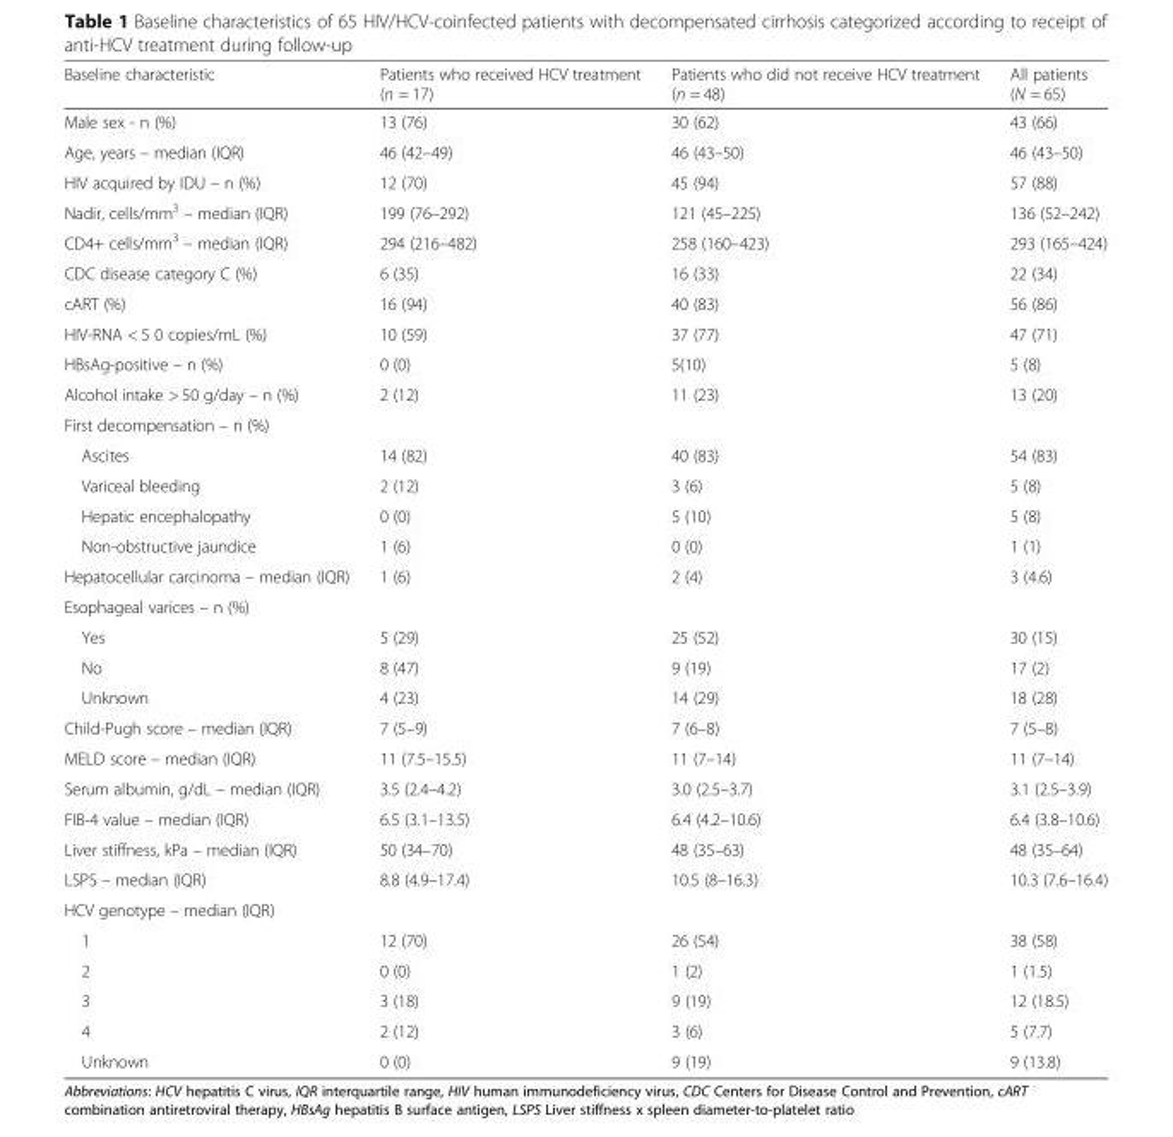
<table><thead><tr><td>Baseline characteristic</td><td>Patients who received HCV treatment (n = 17)</td><td>Patients who did not receive HCV treatment (n = 48)</td><td>All patients (N = 65)</td></tr></thead><tbody><tr><td>Male sex - n (%)</td><td>13 (76)</td><td>30 (62)</td><td>43 (66)</td></tr><tr><td>Age, years – median (IQR)</td><td>46 (42–49)</td><td>46 (43–50)</td><td>46 (43–50)</td></tr><tr><td>HIV acquired by IDU – n (%)</td><td>12 (70)</td><td>45 (94)</td><td>57 (88)</td></tr><tr><td>Nadir, cells/mm<sup>3</sup> – median (IQR)</td><td>199 (76–292)</td><td>121 (45–225)</td><td>136 (52–242)</td></tr><tr><td>CD4+ cells/mm<sup>3</sup> – median (IQR)</td><td>294 (216–482)</td><td>258 (160–423)</td><td>293 (165–424)</td></tr><tr><td>CDC disease category C (%)</td><td>6 (35)</td><td>16 (33)</td><td>22 (34)</td></tr><tr><td>cART (%)</td><td>16 (94)</td><td>40 (83)</td><td>56 (86)</td></tr><tr><td>HIV-RNA &lt; 5 0 copies/mL (%)</td><td>10 (59)</td><td>37 (77)</td><td>47 (71)</td></tr><tr><td>HBsAg-positive – n (%)</td><td>0 (0)</td><td>5(10)</td><td>5 (8)</td></tr><tr><td>Alcohol intake &gt; 50 g/day – n (%)</td><td>2 (12)</td><td>11 (23)</td><td>13 (20)</td></tr><tr><td colspan="4">First decompensation – n (%)</td></tr><tr><td>Ascites</td><td>14 (82)</td><td>40 (83)</td><td>54 (83)</td></tr><tr><td>Variceal bleeding</td><td>2 (12)</td><td>3 (6)</td><td>5 (8)</td></tr><tr><td>Hepatic encephalopathy</td><td>0 (0)</td><td>5 (10)</td><td>5 (8)</td></tr><tr><td>Non-obstructive jaundice</td><td>1 (6)</td><td>0 (0)</td><td>1 (1)</td></tr><tr><td>Hepatocellular carcinoma – median (IQR)</td><td>1 (6)</td><td>2 (4)</td><td>3 (4.6)</td></tr><tr><td colspan="4">Esophageal varices – n (%)</td></tr><tr><td>Yes</td><td>5 (29)</td><td>25 (52)</td><td>30 (15)</td></tr><tr><td>No</td><td>8 (47)</td><td>9 (19)</td><td>17 (2)</td></tr><tr><td>Unknown</td><td>4 (23)</td><td>14 (29)</td><td>18 (28)</td></tr><tr><td>Child-Pugh score – median (IQR)</td><td>7 (5–9)</td><td>7 (6–8)</td><td>7 (5–8)</td></tr><tr><td>MELD score – median (IQR)</td><td>11 (7.5–15.5)</td><td>11 (7–14)</td><td>11 (7–14)</td></tr><tr><td>Serum albumin, g/dL – median (IQR)</td><td>3.5 (2.4–4.2)</td><td>3.0 (2.5–3.7)</td><td>3.1 (2.5–3.9)</td></tr><tr><td>FIB-4 value – median (IQR)</td><td>6.5 (3.1–13.5)</td><td>6.4 (4.2–10.6)</td><td>6.4 (3.8–10.6)</td></tr><tr><td>Liver stiffness, kPa – median (IQR)</td><td>50 (34–70)</td><td>48 (35–63)</td><td>48 (35–64)</td></tr><tr><td>LSPS – median (IQR)</td><td>8.8 (4.9–17.4)</td><td>10.5 (8–16.3)</td><td>10.3 (7.6–16.4)</td></tr><tr><td colspan="4">HCV genotype – median (IQR)</td></tr><tr><td>1</td><td>12 (70)</td><td>26 (54)</td><td>38 (58)</td></tr><tr><td>2</td><td>0 (0)</td><td>1 (2)</td><td>1 (1.5)</td></tr><tr><td>3</td><td>3 (18)</td><td>9 (19)</td><td>12 (18.5)</td></tr><tr><td>4</td><td>2 (12)</td><td>3 (6)</td><td>5 (7.7)</td></tr><tr><td>Unknown</td><td>0 (0)</td><td>9 (19)</td><td>9 (13.8)</td></tr></tbody></table>